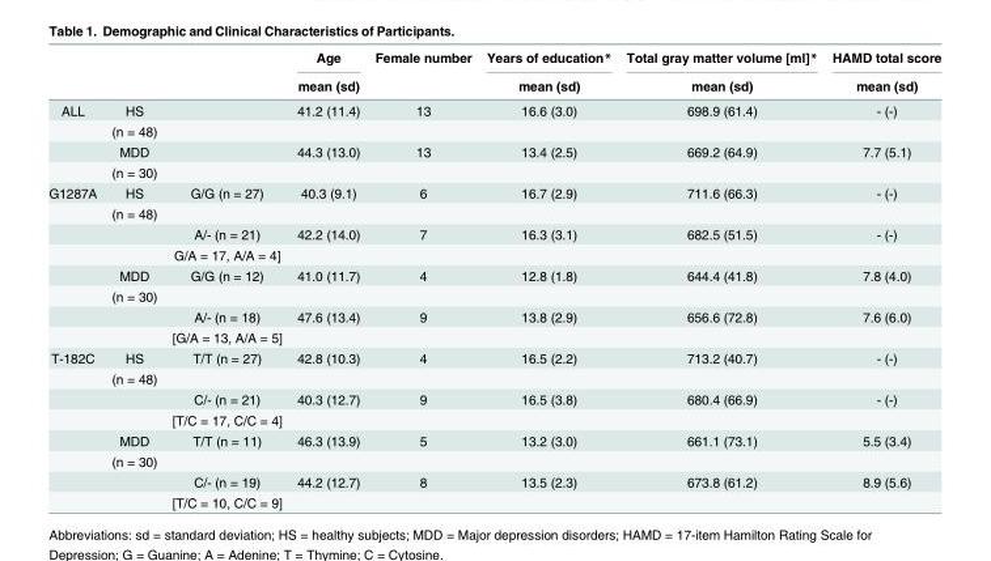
<table><thead><tr><td rowspan="2"></td><td rowspan="2"></td><td rowspan="2"></td><td rowspan="2">Age mean (sd)</td><td rowspan="2">Female number</td><td rowspan="2">Years of education* mean (sd)</td><td rowspan="2">Total gray matter volume [ml]* mean (sd)</td><td rowspan="2">HAMD total score mean (sd)</td></tr><tr></tr></thead><tbody><tr><td rowspan="4">ALL</td><td>HS</td><td></td><td>41.2 (11.4)</td><td>13</td><td>16.6 (3.0)</td><td>698.9 (61.4)</td><td>- (-)</td></tr><tr><td>(n = 48)</td><td></td><td></td><td></td><td></td><td></td><td></td></tr><tr><td>MDD</td><td></td><td>44.3 (13.0)</td><td>13</td><td>13.4 (2.5)</td><td>669.2 (64.9)</td><td>7.7 (5.1)</td></tr><tr><td>(n = 30)</td><td></td><td></td><td></td><td></td><td></td><td></td></tr><tr><td rowspan="8">G1287A</td><td>HS</td><td>G/G (n = 27)</td><td>40.3 (9.1)</td><td>6</td><td>16.7 (2.9)</td><td>711.6 (66.3)</td><td>- (-)</td></tr><tr><td>(n = 48)</td><td></td><td></td><td></td><td></td><td></td><td></td></tr><tr><td></td><td>A/- (n = 21)</td><td>42.2 (14.0)</td><td>7</td><td>16.3 (3.1)</td><td>682.5 (51.5)</td><td>- (-)</td></tr><tr><td></td><td>G/A = 17, A/A = 4]</td><td></td><td></td><td></td><td></td><td></td></tr><tr><td>MDD</td><td>G/G (n = 12)</td><td>41.0 (11.7)</td><td>4</td><td>12.8 (1.8)</td><td>644.4 (41.8)</td><td>7.8 (4.0)</td></tr><tr><td>(n = 30)</td><td></td><td></td><td></td><td></td><td></td><td></td></tr><tr><td></td><td>A/- (n = 18)</td><td>47.6 (13.4)</td><td>9</td><td>13.8 (2.9)</td><td>656.6 (72.8)</td><td>7.6 (6.0)</td></tr><tr><td></td><td>[G/A = 13, A/A = 5]</td><td></td><td></td><td></td><td></td><td></td></tr><tr><td rowspan="8">T-182C</td><td>HS</td><td>T/T (n = 27)</td><td>42.8 (10.3)</td><td>4</td><td>16.5 (2.2)</td><td>713.2 (40.7)</td><td>- (-)</td></tr><tr><td>(n = 48)</td><td></td><td></td><td></td><td></td><td></td><td></td></tr><tr><td></td><td>C/- (n = 21)</td><td>40.3 (12.7)</td><td>9</td><td>16.5 (3.8)</td><td>680.4 (66.9)</td><td>- (-)</td></tr><tr><td></td><td>[T/C = 17, C/C = 4]</td><td></td><td></td><td></td><td></td><td></td></tr><tr><td>MDD</td><td>T/T (n = 11)</td><td>46.3 (13.9)</td><td>5</td><td>13.2 (3.0)</td><td>661.1 (73.1)</td><td>5.5 (3.4)</td></tr><tr><td>(n = 30)</td><td></td><td></td><td></td><td></td><td></td><td></td></tr><tr><td></td><td>C/- (n = 19)</td><td>44.2 (12.7)</td><td>8</td><td>13.5 (2.3)</td><td>673.8 (61.2)</td><td>8.9 (5.6)</td></tr><tr><td></td><td>[T/C = 10, C/C = 9]</td><td></td><td></td><td></td><td></td><td></td></tr></tbody></table>